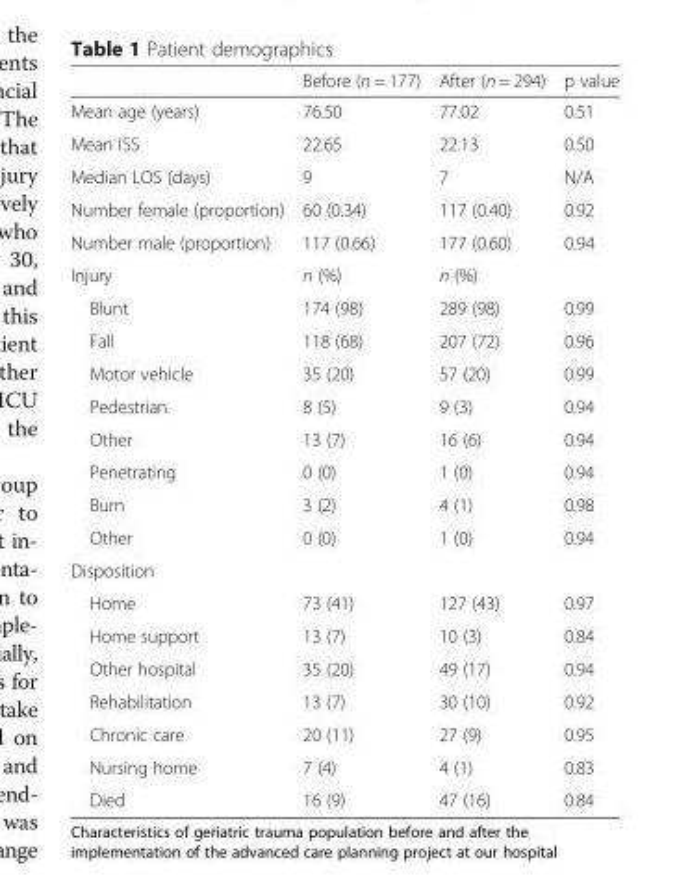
<table><thead><tr><td></td><td>Before (n = 177)</td><td>After (n = 294)</td><td>p value</td></tr></thead><tbody><tr><td>Mean age (years)</td><td>76.50</td><td>77.02</td><td>0.51</td></tr><tr><td>Mean ISS</td><td>22.65</td><td>22.13</td><td>0.50</td></tr><tr><td>Median LOS (days)</td><td>9</td><td>7</td><td>N/A</td></tr><tr><td>Number female (proportion)</td><td>60 (0.34)</td><td>117 (0.40)</td><td>0.92</td></tr><tr><td>Number male (proportion)</td><td>117 (0.66)</td><td>177 (0.60)</td><td>0.94</td></tr><tr><td>Injury</td><td>n (%)</td><td>n (%)</td><td></td></tr><tr><td>Blunt</td><td>174 (98)</td><td>289 (98)</td><td>0.99</td></tr><tr><td>Fall</td><td>118 (68)</td><td>207 (72)</td><td>0.96</td></tr><tr><td>Motor vehicle</td><td>35 (20)</td><td>57 (20)</td><td>0.99</td></tr><tr><td>Pedestrian</td><td>8 (5)</td><td>9 (3)</td><td>0.94</td></tr><tr><td>Other</td><td>13 (7)</td><td>16 (6)</td><td>0.94</td></tr><tr><td>Penetrating</td><td>0 (0)</td><td>1 (0)</td><td>0.94</td></tr><tr><td>Burn</td><td>3 (2)</td><td>4 (1)</td><td>0.98</td></tr><tr><td>Other</td><td>0 (0)</td><td>1 (0)</td><td>0.94</td></tr><tr><td colspan="4">Disposition</td></tr><tr><td>Home</td><td>73 (41)</td><td>127 (43)</td><td>0.97</td></tr><tr><td>Home support</td><td>13 (7)</td><td>10 (3)</td><td>0.84</td></tr><tr><td>Other hospital</td><td>35 (20)</td><td>49 (17)</td><td>0.94</td></tr><tr><td>Rehabilitation</td><td>13 (7)</td><td>30 (10)</td><td>0.92</td></tr><tr><td>Chronic care</td><td>20 (11)</td><td>27 (9)</td><td>0.95</td></tr><tr><td>Nursing home</td><td>7 (4)</td><td>4 (1)</td><td>0.83</td></tr><tr><td>Died</td><td>16 (9)</td><td>47 (16)</td><td>0.84</td></tr></tbody></table>